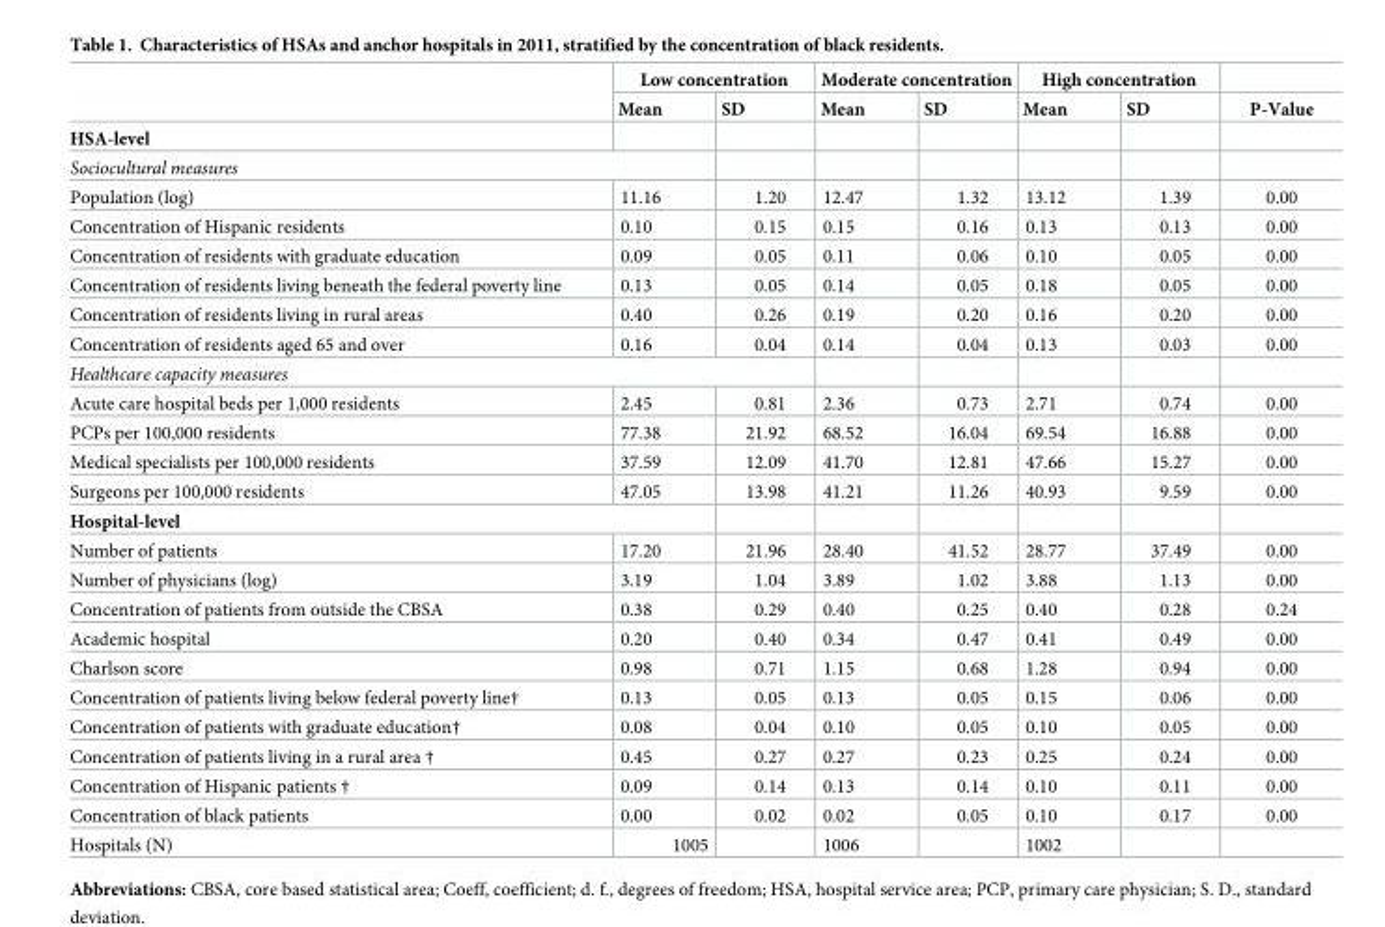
<table><thead><tr><td rowspan="2"></td><td colspan="2">Low concentration</td><td colspan="2">Moderate concentration</td><td colspan="2">High concentration</td><td rowspan="2">P-Value</td></tr><tr><td>Mean</td><td>SD</td><td>Mean</td><td>SD</td><td>Mean</td><td>SD</td></tr></thead><tbody><tr><td colspan="8">HSA-level</td></tr><tr><td colspan="8">Sociocultural measures</td></tr><tr><td>Population (log)</td><td>11.16</td><td>1.20</td><td>12.47</td><td>1.32</td><td>13.12</td><td>1.39</td><td>0.00</td></tr><tr><td>Concentration of Hispanic residents</td><td>0.10</td><td>0.15</td><td>0.15</td><td>0.16</td><td>0.13</td><td>0.13</td><td>0.00</td></tr><tr><td>Concentration of residents with graduate education</td><td>0.09</td><td>0.05</td><td>0.11</td><td>0.06</td><td>0.10</td><td>0.05</td><td>0.00</td></tr><tr><td>Concentration of residents living beneath the federal poverty line</td><td>0.13</td><td>0.05</td><td>0.14</td><td>0.05</td><td>0.18</td><td>0.05</td><td>0.00</td></tr><tr><td>Concentration of residents living in rural areas</td><td>0.40</td><td>0.26</td><td>0.19</td><td>0.20</td><td>0.16</td><td>0.20</td><td>0.00</td></tr><tr><td>Concentration of residents aged 65 and over</td><td>0.16</td><td>0.04</td><td>0.14</td><td>0.04</td><td>0.13</td><td>0.03</td><td>0.00</td></tr><tr><td colspan="8">Healthcare capacity measures</td></tr><tr><td>Acute care hospital beds per 1,000 residents</td><td>2.45</td><td>0.81</td><td>2.36</td><td>0.73</td><td>2.71</td><td>0.74</td><td>0.00</td></tr><tr><td>PCPs per 100,000 residents</td><td>77.38</td><td>21.92</td><td>68.52</td><td>16.04</td><td>69.54</td><td>16.88</td><td>0.00</td></tr><tr><td>Medical specialists per 100,000 residents</td><td>37.59</td><td>12.09</td><td>41.70</td><td>12.81</td><td>47.66</td><td>15.27</td><td>0.00</td></tr><tr><td>Surgeons per 100,000 residents</td><td>47.05</td><td>13.98</td><td>41.21</td><td>11.26</td><td>40.93</td><td>9.59</td><td>0.00</td></tr><tr><td colspan="8">Hospital-level</td></tr><tr><td>Number of patients</td><td>17.20</td><td>21.96</td><td>28.40</td><td>41.52</td><td>28.77</td><td>37.49</td><td>0.00</td></tr><tr><td>Number of physicians (log)</td><td>3.19</td><td>1.04</td><td>3.89</td><td>1.02</td><td>3.88</td><td>1.13</td><td>0.00</td></tr><tr><td>Concentration of patients from outside the CBSA</td><td>0.38</td><td>0.29</td><td>0.40</td><td>0.25</td><td>0.40</td><td>0.28</td><td>0.24</td></tr><tr><td>Academic hospital</td><td>0.20</td><td>0.40</td><td>0.34</td><td>0.47</td><td>0.41</td><td>0.49</td><td>0.00</td></tr><tr><td>Charlson score</td><td>0.98</td><td>0.71</td><td>1.15</td><td>0.68</td><td>1.28</td><td>0.94</td><td>0.00</td></tr><tr><td>Concentration of patients living below federal poverty line†</td><td>0.13</td><td>0.05</td><td>0.13</td><td>0.05</td><td>0.15</td><td>0.06</td><td>0.00</td></tr><tr><td>Concentration of patients with graduate education†</td><td>0.08</td><td>0.04</td><td>0.10</td><td>0.05</td><td>0.10</td><td>0.05</td><td>0.00</td></tr><tr><td>Concentration of patients living in a rural area †</td><td>0.45</td><td>0.27</td><td>0.27</td><td>0.23</td><td>0.25</td><td>0.24</td><td>0.00</td></tr><tr><td>Concentration of Hispanic patients †</td><td>0.09</td><td>0.14</td><td>0.13</td><td>0.14</td><td>0.10</td><td>0.11</td><td>0.00</td></tr><tr><td>Concentration of black patients</td><td>0.00</td><td>0.02</td><td>0.02</td><td>0.05</td><td>0.10</td><td>0.17</td><td>0.00</td></tr><tr><td>Hospitals (N)</td><td>1005</td><td></td><td>1006</td><td></td><td>1002</td><td></td><td></td></tr></tbody></table>